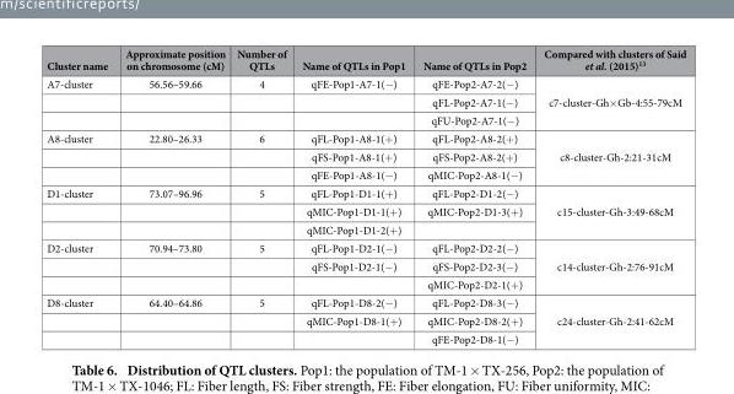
<table><thead><tr><td>Cluster name</td><td>Approximate position on chromosome (cM)</td><td>Number of QTLs</td><td>Name of QTLs in Pop1</td><td>Name of QTLs in Pop2</td><td>Compared with clusters of Said et al. (2015)<sup>13</sup></td></tr></thead><tbody><tr><td rowspan="3">A7-cluster</td><td>56.56–59.66</td><td>4</td><td>qFE-Pop1-A7-1(− )</td><td>qFE-Pop2-A7-2(− )</td><td rowspan="3">c7-cluster-Gh× Gb-4:55-79cM</td></tr><tr><td></td><td></td><td></td><td>qFL-Pop2-A7-1(− )</td></tr><tr><td></td><td></td><td></td><td>qFU-Pop2-A7-1(− )</td></tr><tr><td rowspan="3">A8-cluster</td><td>22.80–26.33</td><td>6</td><td>qFL-Pop1-A8-1(+ )</td><td>qFL-Pop2-A8-2(+ )</td><td rowspan="3">c8-cluster-Gh-2:21-31cM</td></tr><tr><td></td><td></td><td>qFS-Pop1-A8-1(+ )</td><td>qFS-Pop2-A8-2(+ )</td></tr><tr><td></td><td></td><td>qFE-Pop1-A8-1(− )</td><td>qMIC-Pop2-A8-1(− )</td></tr><tr><td rowspan="3">D1-cluster</td><td>73.07–96.96</td><td>5</td><td>qFL-Pop1-D1-1(+ )</td><td>qFL-Pop2-D1-2(− )</td><td rowspan="3">c15-cluster-Gh-3:49-68cM</td></tr><tr><td></td><td></td><td>qMIC-Pop1-D1-1(+ )</td><td>qMIC-Pop2-D1-3(+ )</td></tr><tr><td></td><td></td><td>qMIC-Pop1-D1-2(+ )</td><td></td></tr><tr><td rowspan="3">D2-cluster</td><td>70.94–73.80</td><td>5</td><td>qFL-Pop1-D2-1(− )</td><td>qFL-Pop2-D2-2(− )</td><td rowspan="3">c14-cluster-Gh-2:76-91cM</td></tr><tr><td></td><td></td><td>qFS-Pop1-D2-1(− )</td><td>qFS-Pop2-D2-3(− )</td></tr><tr><td></td><td></td><td></td><td>qMIC-Pop2-D2-1(+ )</td></tr><tr><td rowspan="3">D8-cluster</td><td>64.40–64.86</td><td>5</td><td>qFL-Pop1-D8-2(− )</td><td>qFL-Pop2-D8-3(− )</td><td rowspan="3">c24-cluster-Gh-2:41-62cM</td></tr><tr><td></td><td></td><td>qMIC-Pop1-D8-1(+ )</td><td>qMIC-Pop2-D8-2(+ )</td></tr><tr><td></td><td></td><td></td><td>qFE-Pop2-D8-1(− )</td></tr></tbody></table>